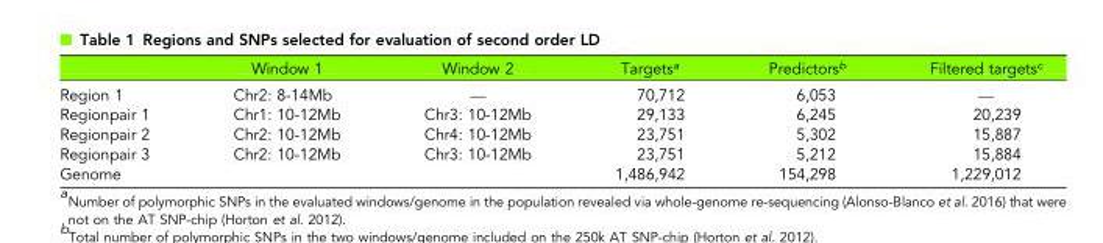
<table><thead><tr><td></td><td>Window 1</td><td>Window 2</td><td>Targets<sup>a</sup></td><td>Predictors<sup>b</sup></td><td>Filtered targets<sup>c</sup></td></tr></thead><tbody><tr><td>Region 1</td><td>Chr2: 8-14Mb</td><td>—</td><td>70,712</td><td>6,053</td><td>—</td></tr><tr><td>Regionpair 1</td><td>Chr1: 10-12Mb</td><td>Chr3: 10-12Mb</td><td>29,133</td><td>6,245</td><td>20,239</td></tr><tr><td>Regionpair 2</td><td>Chr2: 10-12Mb</td><td>Chr4: 10-12Mb</td><td>23,751</td><td>5,302</td><td>15,887</td></tr><tr><td>Regionpair 3</td><td>Chr2: 10-12Mb</td><td>Chr3: 10-12Mb</td><td>23,751</td><td>5,212</td><td>15,884</td></tr><tr><td>Genome</td><td></td><td></td><td>1,486,942</td><td>154,298</td><td>1,229,012</td></tr></tbody></table>